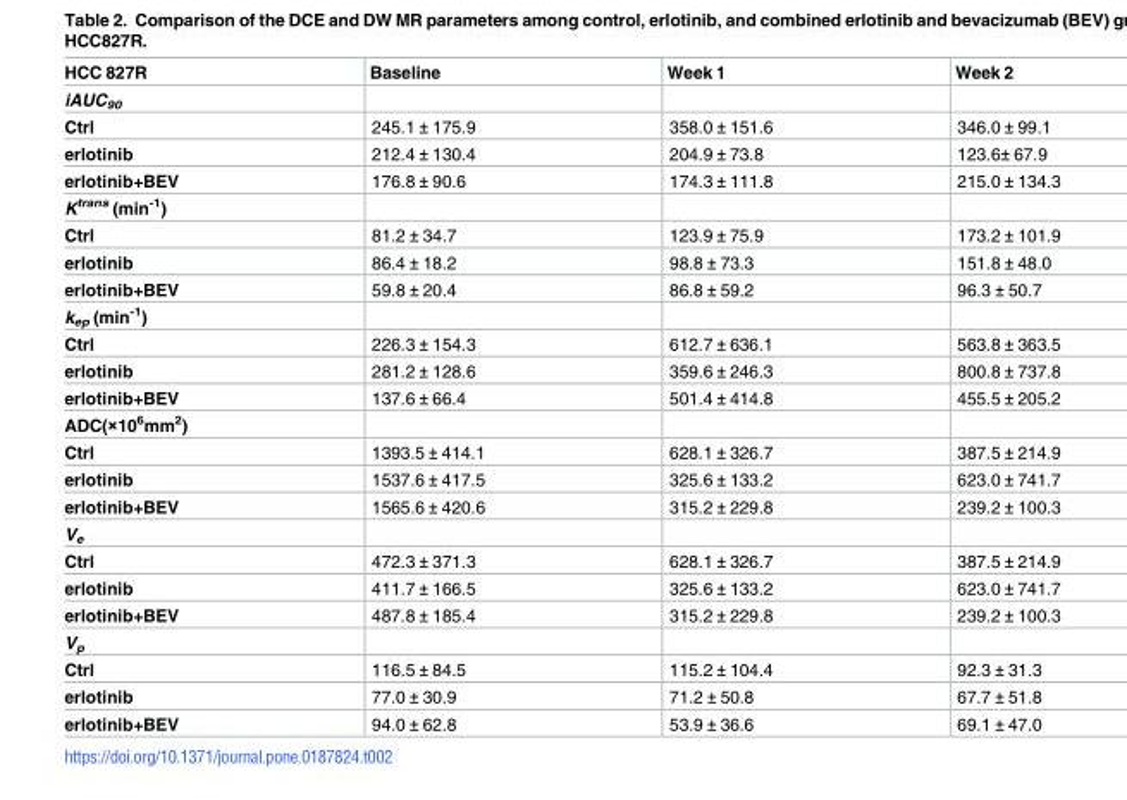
<table><thead><tr><td>HCC 827R</td><td>Baseline</td><td>Week 1</td><td>Week 2</td></tr></thead><tbody><tr><td colspan="4">iAUC<sub>90</sub></td></tr><tr><td>Ctrl</td><td>245.1 ± 175.9</td><td>358.0 ± 151.6</td><td>346.0 ± 99.1</td></tr><tr><td>erlotinib</td><td>212.4 ± 130.4</td><td>204.9 ± 73.8</td><td>123.6± 67.9</td></tr><tr><td>erlotinib+BEV</td><td>176.8 ± 90.6</td><td>174.3 ± 111.8</td><td>215.0 ± 134.3</td></tr><tr><td colspan="4">K<sup>trans</sup> (min<sup>-1</sup>)</td></tr><tr><td>Ctrl</td><td>81.2 ± 34.7</td><td>123.9 ± 75.9</td><td>173.2 ± 101.9</td></tr><tr><td>erlotinib</td><td>86.4 ± 18.2</td><td>98.8 ± 73.3</td><td>151.8 ± 48.0</td></tr><tr><td>erlotinib+BEV</td><td>59.8 ± 20.4</td><td>86.8 ± 59.2</td><td>96.3 ± 50.7</td></tr><tr><td colspan="4">k<sub>ep</sub> (min<sup>-1</sup>)</td></tr><tr><td>Ctrl</td><td>226.3 ± 154.3</td><td>612.7 ± 636.1</td><td>563.8 ± 363.5</td></tr><tr><td>erlotinib</td><td>281.2 ± 128.6</td><td>359.6 ± 246.3</td><td>800.8 ± 737.8</td></tr><tr><td>erlotinib+BEV</td><td>137.6 ± 66.4</td><td>501.4 ± 414.8</td><td>455.5 ± 205.2</td></tr><tr><td colspan="4">ADC(×10<sup>6</sup>mm<sup>2</sup>)</td></tr><tr><td>Ctrl</td><td>1393.5 ± 414.1</td><td>628.1 ± 326.7</td><td>387.5 ± 214.9</td></tr><tr><td>erlotinib</td><td>1537.6 ± 417.5</td><td>325.6 ± 133.2</td><td>623.0 ± 741.7</td></tr><tr><td>erlotinib+BEV</td><td>1565.6 ± 420.6</td><td>315.2 ± 229.8</td><td>239.2 ± 100.3</td></tr><tr><td colspan="4">V<sub>e</sub></td></tr><tr><td>Ctrl</td><td>472.3 ± 371.3</td><td>628.1 ± 326.7</td><td>387.5 ± 214.9</td></tr><tr><td>erlotinib</td><td>411.7 ± 166.5</td><td>325.6 ± 133.2</td><td>623.0 ± 741.7</td></tr><tr><td>erlotinib+BEV</td><td>487.8 ± 185.4</td><td>315.2 ± 229.8</td><td>239.2 ± 100.3</td></tr><tr><td colspan="4">V<sub>p</sub></td></tr><tr><td>Ctrl</td><td>116.5 ± 84.5</td><td>115.2 ± 104.4</td><td>92.3 ± 31.3</td></tr><tr><td>erlotinib</td><td>77.0 ± 30.9</td><td>71.2 ± 50.8</td><td>67.7 ± 51.8</td></tr><tr><td>erlotinib+BEV</td><td>94.0 ± 62.8</td><td>53.9 ± 36.6</td><td>69.1 ± 47.0</td></tr></tbody></table>